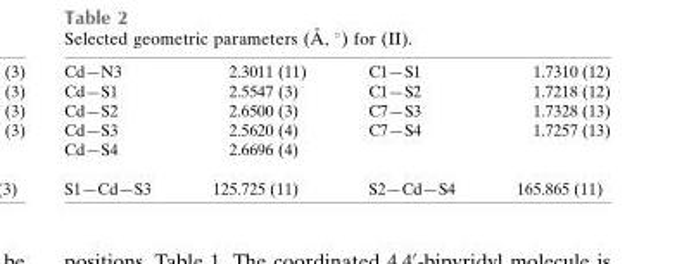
<table><tbody><tr><td>Cd—N3</td><td>2.3011 (11)</td><td>C1—S1</td><td>1.7310 (12)</td></tr><tr><td>Cd—S1</td><td>2.5547 (3)</td><td>C1—S2</td><td>1.7218 (12)</td></tr><tr><td>Cd—S2</td><td>2.6500 (3)</td><td>C7—S3</td><td>1.7328 (13)</td></tr><tr><td>Cd—S3</td><td>2.5620 (4)</td><td>C7—S4</td><td>1.7257 (13)</td></tr><tr><td>Cd—S4</td><td>2.6696 (4)</td><td></td><td></td></tr><tr><td>S1—Cd—S3</td><td>125.725 (11)</td><td>S2—Cd—S4</td><td>165.865 (11)</td></tr></tbody></table>